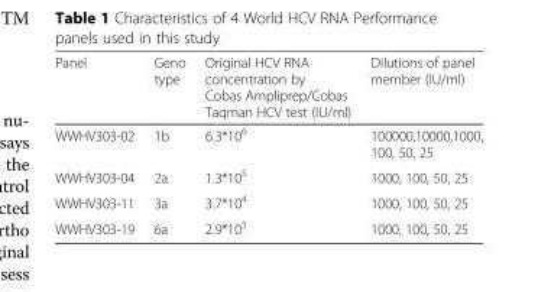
<table><thead><tr><td>Panel</td><td>Geno type</td><td>Original HCV RNA concentration by Cobas Ampliprep/Cobas Taqman HCV test (IU/ml)</td><td>Dilutions of panel member (IU/ml)</td></tr></thead><tbody><tr><td>WWHV303-02</td><td>1b</td><td>6.3*10<sup>6</sup></td><td>100000,10000,1000, 100, 50, 25</td></tr><tr><td>WWHV303-04</td><td>2a</td><td>1.3*10<sup>5</sup></td><td>1000, 100, 50, 25</td></tr><tr><td>WWHV303-11</td><td>3a</td><td>3.7*10<sup>4</sup></td><td>1000, 100, 50, 25</td></tr><tr><td>WWHV303-19</td><td>6a</td><td>2.9*10<sup>5</sup></td><td>1000, 100, 50, 25</td></tr></tbody></table>